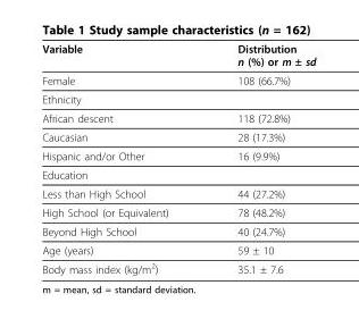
<table><thead><tr><td>Variable</td><td>Distribution n (%) or m ± sd</td></tr></thead><tbody><tr><td>Female</td><td>108 (66.7%)</td></tr><tr><td colspan="2">Ethnicity</td></tr><tr><td>African descent</td><td>118 (72.8%)</td></tr><tr><td>Caucasian</td><td>28 (17.3%)</td></tr><tr><td>Hispanic and/or Other</td><td>16 (9.9%)</td></tr><tr><td colspan="2">Education</td></tr><tr><td>Less than High School</td><td>44 (27.2%)</td></tr><tr><td>High School (or Equivalent)</td><td>78 (48.2%)</td></tr><tr><td>Beyond High School</td><td>40 (24.7%)</td></tr><tr><td>Age (years)</td><td>59 ± 10</td></tr><tr><td>Body mass index (kg/m<sup>2</sup>)</td><td>35.1 ± 7.6</td></tr></tbody></table>